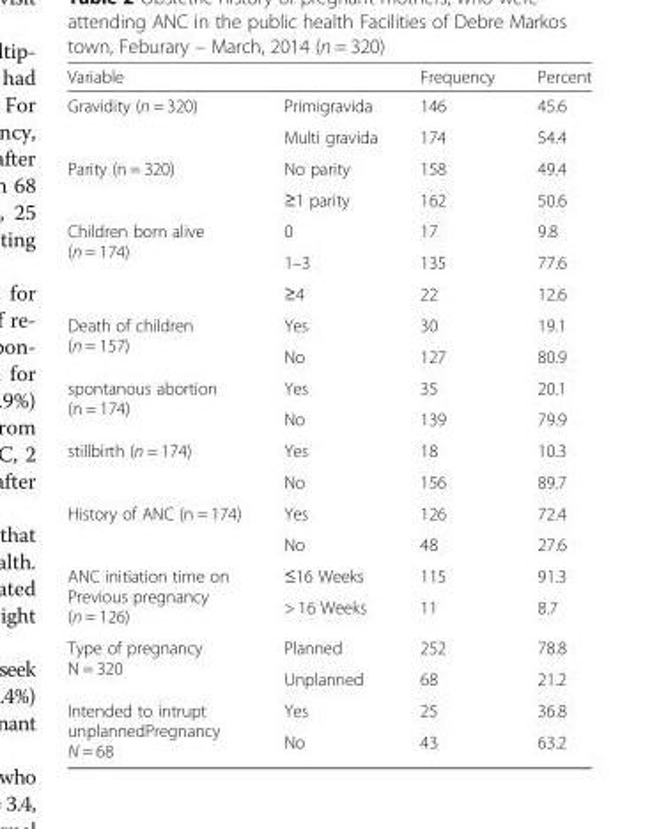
<table><thead><tr><td>Variable</td><td></td><td>Frequency</td><td>Percent</td></tr></thead><tbody><tr><td rowspan="2">Gravidity (n = 320)</td><td>Primigravida</td><td>146</td><td>45.6</td></tr><tr><td>Multi gravida</td><td>174</td><td>54.4</td></tr><tr><td rowspan="2">Parity (n = 320)</td><td>No parity</td><td>158</td><td>49.4</td></tr><tr><td>≥1 parity</td><td>162</td><td>50.6</td></tr><tr><td rowspan="3">Children born alive (n = 174)</td><td>0</td><td>17</td><td>9.8</td></tr><tr><td>1–3</td><td>135</td><td>77.6</td></tr><tr><td>≥4</td><td>22</td><td>12.6</td></tr><tr><td rowspan="2">Death of children (n = 157)</td><td>Yes</td><td>30</td><td>19.1</td></tr><tr><td>No</td><td>127</td><td>80.9</td></tr><tr><td rowspan="2">spontanous abortion (n = 174)</td><td>Yes</td><td>35</td><td>20.1</td></tr><tr><td>No</td><td>139</td><td>79.9</td></tr><tr><td rowspan="2">stillbirth (n = 174)</td><td>Yes</td><td>18</td><td>10.3</td></tr><tr><td>No</td><td>156</td><td>89.7</td></tr><tr><td rowspan="2">History of ANC (n = 174)</td><td>Yes</td><td>126</td><td>72.4</td></tr><tr><td>No</td><td>48</td><td>27.6</td></tr><tr><td rowspan="2">ANC initiation time on Previous pregnancy (n = 126)</td><td>≤16 Weeks</td><td>115</td><td>91.3</td></tr><tr><td>&gt; 16 Weeks</td><td>11</td><td>8.7</td></tr><tr><td rowspan="2">Type of pregnancy N = 320</td><td>Planned</td><td>252</td><td>78.8</td></tr><tr><td>Unplanned</td><td>68</td><td>21.2</td></tr><tr><td rowspan="2">Intended to intrupt unplannedPregnancy N = 68</td><td>Yes</td><td>25</td><td>36.8</td></tr><tr><td>No</td><td>43</td><td>63.2</td></tr></tbody></table>